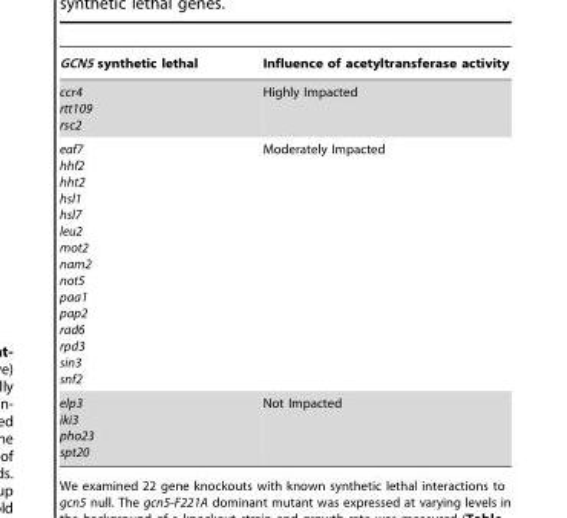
<table><thead><tr><td>GCN5 synthetic lethal</td><td>Influence of acetyltransferase activity</td></tr></thead><tbody><tr><td>ccr4 rtt109 rsc2</td><td>Highly Impacted</td></tr><tr><td>eaf7 hhf2 hht2 hsl1 hsl7 leu2 mot2 nam2 not5 paa1 pap2 rad6 rpd3 sin3 snf2</td><td>Moderately Impacted</td></tr><tr><td>elp3 iki3 pho23 spt20</td><td>Not Impacted</td></tr></tbody></table>